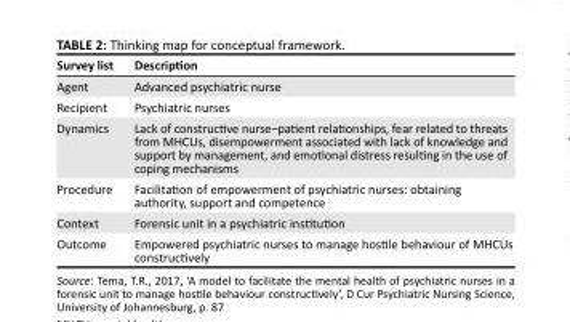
<table><thead><tr><td>Survey list</td><td>Description</td></tr></thead><tbody><tr><td>Agent</td><td>Advanced psychiatric nurse</td></tr><tr><td>Recipient</td><td>Psychiatric nurses</td></tr><tr><td>Dynamics</td><td>Lack of constructive nurse–patient relationships, fear related to threats from MHCUs, disempowerment associated with lack of knowledge and support by management, and emotional distress resulting in the use of coping mechanisms</td></tr><tr><td>Procedure</td><td>Facilitation of empowerment of psychiatric nurses: obtaining authority, support and competence</td></tr><tr><td>Context</td><td>Forensic unit in a psychiatric institution</td></tr><tr><td>Outcome</td><td>Empowered psychiatric nurses to manage hostile behaviour of MHCUs constructively</td></tr></tbody></table>